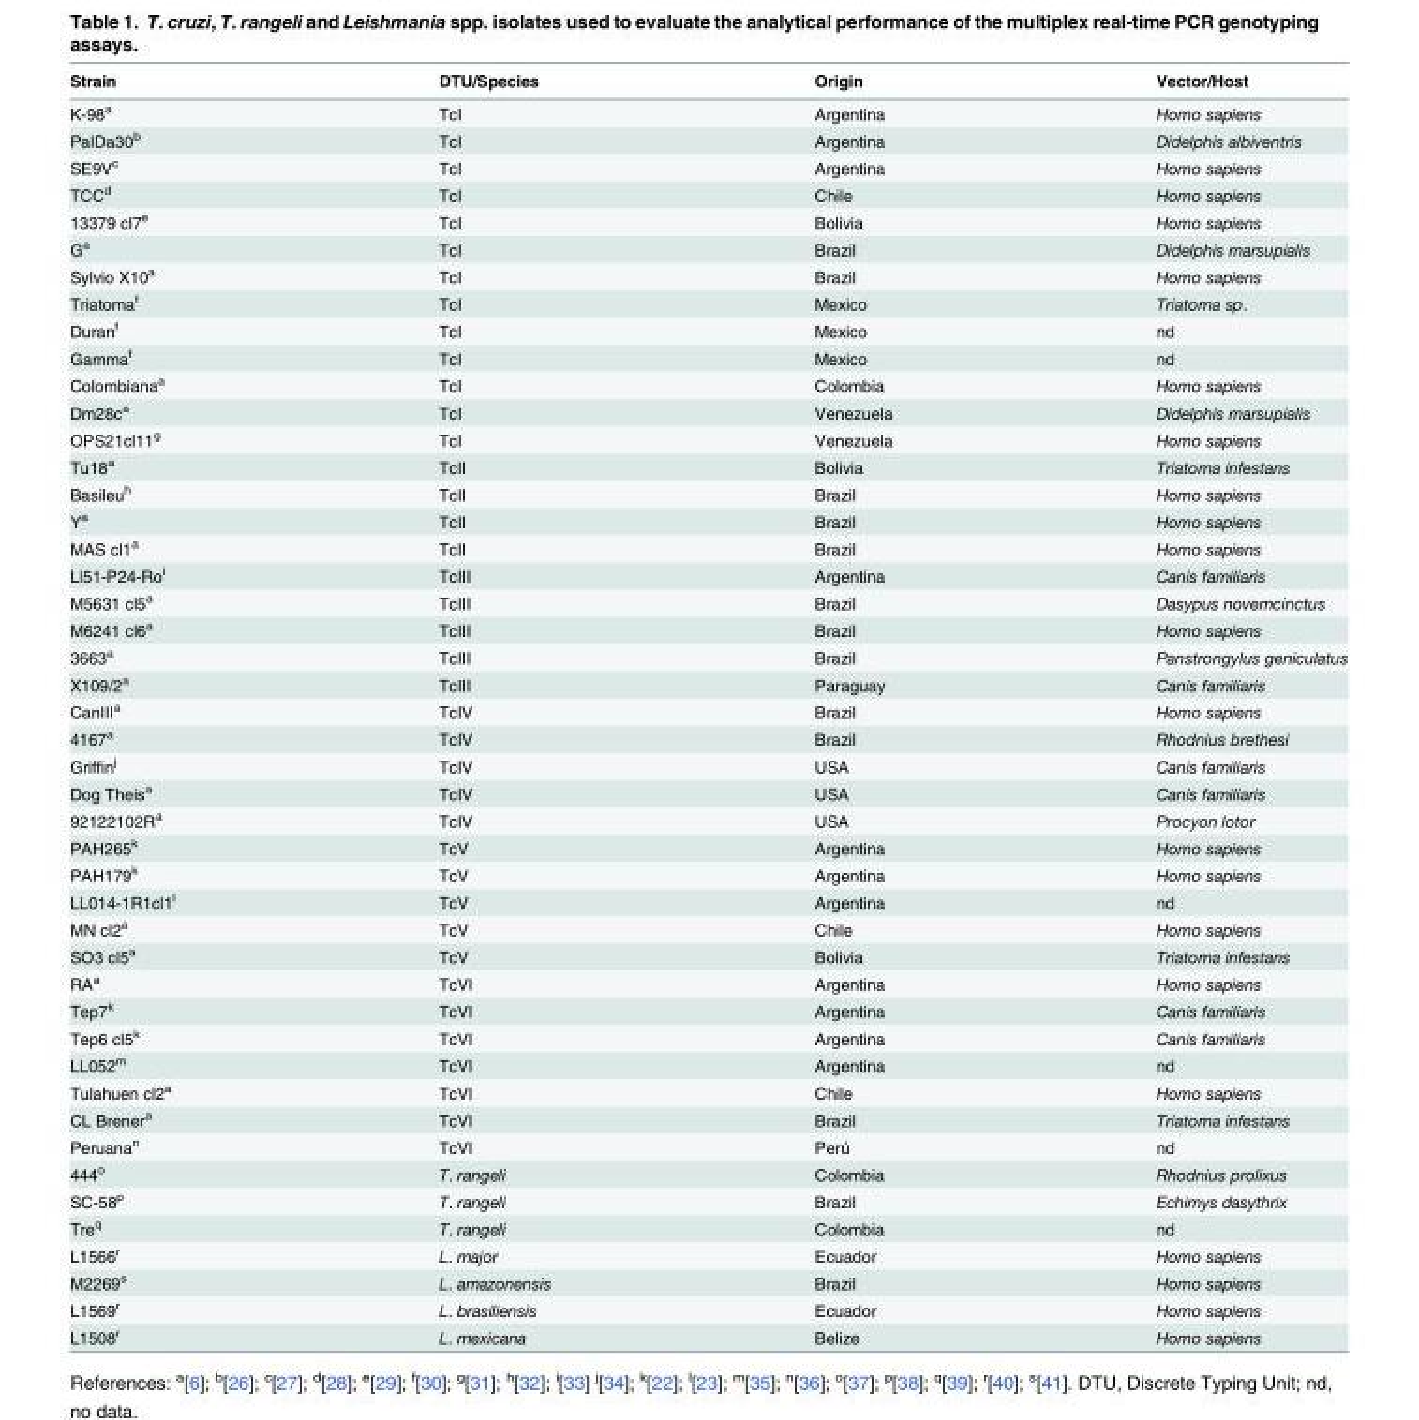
<table><thead><tr><td>Strain</td><td>DTU/Species</td><td>Origin</td><td>Vector/Host</td></tr></thead><tbody><tr><td>K-98<sup>a</sup></td><td>TcI</td><td>Argentina</td><td>Homo sapiens</td></tr><tr><td>PalDa30<sup>b</sup></td><td>TcI</td><td>Argentina</td><td>Didelphis albiventris</td></tr><tr><td>SE9V<sup>c</sup></td><td>TcI</td><td>Argentina</td><td>Homo sapiens</td></tr><tr><td>TCC<sup>d</sup></td><td>TcI</td><td>Chile</td><td>Homo sapiens</td></tr><tr><td>13379 cl7<sup>e</sup></td><td>TcI</td><td>Bolivia</td><td>Homo sapiens</td></tr><tr><td>G<sup>a</sup></td><td>TcI</td><td>Brazil</td><td>Didelphis marsupialis</td></tr><tr><td>Sylvio X10<sup>a</sup></td><td>TcI</td><td>Brazil</td><td>Homo sapiens</td></tr><tr><td>Triatoma<sup>f</sup></td><td>TcI</td><td>Mexico</td><td>Triatoma sp.</td></tr><tr><td>Duran<sup>f</sup></td><td>TcI</td><td>Mexico</td><td>nd</td></tr><tr><td>Gamma<sup>f</sup></td><td>TcI</td><td>Mexico</td><td>nd</td></tr><tr><td>Colombiana<sup>a</sup></td><td>TcI</td><td>Colombia</td><td>Homo sapiens</td></tr><tr><td>Dm28c<sup>a</sup></td><td>TcI</td><td>Venezuela</td><td>Didelphis marsupialis</td></tr><tr><td>OPS21cl11<sup>g</sup></td><td>TcI</td><td>Venezuela</td><td>Homo sapiens</td></tr><tr><td>Tu18<sup>a</sup></td><td>TcII</td><td>Bolivia</td><td>Triatoma infestans</td></tr><tr><td>Basileu<sup>h</sup></td><td>TcII</td><td>Brazil</td><td>Homo sapiens</td></tr><tr><td>Y<sup>a</sup></td><td>TcII</td><td>Brazil</td><td>Homo sapiens</td></tr><tr><td>MAS cl1<sup>a</sup></td><td>TcII</td><td>Brazil</td><td>Homo sapiens</td></tr><tr><td>Ll51-P24-Ro<sup>i</sup></td><td>TcIII</td><td>Argentina</td><td>Canis familiaris</td></tr><tr><td>M5631 cl5<sup>a</sup></td><td>TcIII</td><td>Brazil</td><td>Dasypus novemcinctus</td></tr><tr><td>M6241 cl6<sup>a</sup></td><td>TcIII</td><td>Brazil</td><td>Homo sapiens</td></tr><tr><td>3663<sup>a</sup></td><td>TcIII</td><td>Brazil</td><td>Panstrongylus geniculatus</td></tr><tr><td>X109/2<sup>a</sup></td><td>TcIII</td><td>Paraguay</td><td>Canis familiaris</td></tr><tr><td>CanIII<sup>a</sup></td><td>TcIV</td><td>Brazil</td><td>Homo sapiens</td></tr><tr><td>4167<sup>a</sup></td><td>TcIV</td><td>Brazil</td><td>Rhodnius brethesi</td></tr><tr><td>Griffin<sup>j</sup></td><td>TcIV</td><td>USA</td><td>Canis familiaris</td></tr><tr><td>Dog Theis<sup>a</sup></td><td>TcIV</td><td>USA</td><td>Canis familiaris</td></tr><tr><td>92122102R<sup>a</sup></td><td>TcIV</td><td>USA</td><td>Procyon lotor</td></tr><tr><td>PAH265<sup>k</sup></td><td>TcV</td><td>Argentina</td><td>Homo sapiens</td></tr><tr><td>PAH179<sup>k</sup></td><td>TcV</td><td>Argentina</td><td>Homo sapiens</td></tr><tr><td>LL014-1R1cl1<sup>l</sup></td><td>TcV</td><td>Argentina</td><td>nd</td></tr><tr><td>MN cl2<sup>a</sup></td><td>TcV</td><td>Chile</td><td>Homo sapiens</td></tr><tr><td>SO3 cl5<sup>a</sup></td><td>TcV</td><td>Bolivia</td><td>Triatoma infestans</td></tr><tr><td>RA<sup>a</sup></td><td>TcVI</td><td>Argentina</td><td>Homo sapiens</td></tr><tr><td>Tep7<sup>k</sup></td><td>TcVI</td><td>Argentina</td><td>Canis familiaris</td></tr><tr><td>Tep6 cl5<sup>k</sup></td><td>TcVI</td><td>Argentina</td><td>Canis familiaris</td></tr><tr><td>LL052<sup>m</sup></td><td>TcVI</td><td>Argentina</td><td>nd</td></tr><tr><td>Tulahuen cl2<sup>a</sup></td><td>TcVI</td><td>Chile</td><td>Homo sapiens</td></tr><tr><td>CL Brener<sup>a</sup></td><td>TcVI</td><td>Brazil</td><td>Triatoma infestans</td></tr><tr><td>Peruana<sup>n</sup></td><td>TcVI</td><td>Perú</td><td>nd</td></tr><tr><td>444<sup>o</sup></td><td>T. rangeli</td><td>Colombia</td><td>Rhodnius prolixus</td></tr><tr><td>SC-58<sup>p</sup></td><td>T. rangeli</td><td>Brazil</td><td>Echimys dasythrix</td></tr><tr><td>Tre<sup>q</sup></td><td>T. rangeli</td><td>Colombia</td><td>nd</td></tr><tr><td>L1566<sup>r</sup></td><td>L. major</td><td>Ecuador</td><td>Homo sapiens</td></tr><tr><td>M2269<sup>s</sup></td><td>L. amazonensis</td><td>Brazil</td><td>Homo sapiens</td></tr><tr><td>L1569<sup>r</sup></td><td>L. brasiliensis</td><td>Ecuador</td><td>Homo sapiens</td></tr><tr><td>L1508<sup>r</sup></td><td>L. mexicana</td><td>Belize</td><td>Homo sapiens</td></tr></tbody></table>